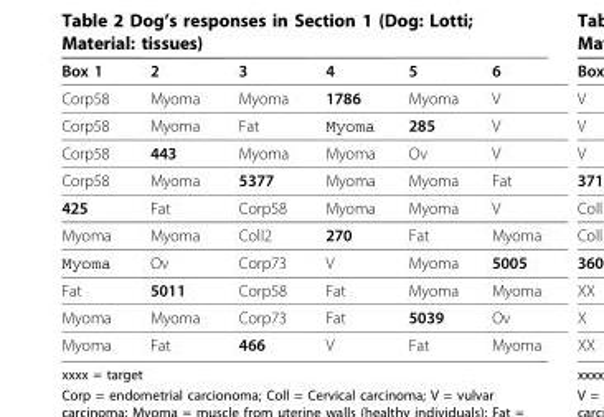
<table><thead><tr><td>Box 1</td><td>2</td><td>3</td><td>4</td><td>5</td><td>6</td></tr></thead><tbody><tr><td>Corp58</td><td>Myoma</td><td>Myoma</td><td>1786</td><td>Myoma</td><td>V</td></tr><tr><td>Corp58</td><td>Myoma</td><td>Fat</td><td>Myoma</td><td>285</td><td>V</td></tr><tr><td>Corp58</td><td>443</td><td>Myoma</td><td>Myoma</td><td>Ov</td><td>V</td></tr><tr><td>Corp58</td><td>Myoma</td><td>5377</td><td>Myoma</td><td>Myoma</td><td>Fat</td></tr><tr><td>425</td><td>Fat</td><td>Corp58</td><td>Myoma</td><td>Myoma</td><td>V</td></tr><tr><td>Myoma</td><td>Myoma</td><td>Coll2</td><td>270</td><td>Fat</td><td>Myoma</td></tr><tr><td>Myoma</td><td>Ov</td><td>Corp73</td><td>V</td><td>Myoma</td><td>5005</td></tr><tr><td>Fat</td><td>5011</td><td>Corp58</td><td>Fat</td><td>Myoma</td><td>Myoma</td></tr><tr><td>Myoma</td><td>Myoma</td><td>Corp73</td><td>Fat</td><td>5039</td><td>Ov</td></tr><tr><td>Myoma</td><td>Fat</td><td>466</td><td>V</td><td>Fat</td><td>Myoma</td></tr></tbody></table>